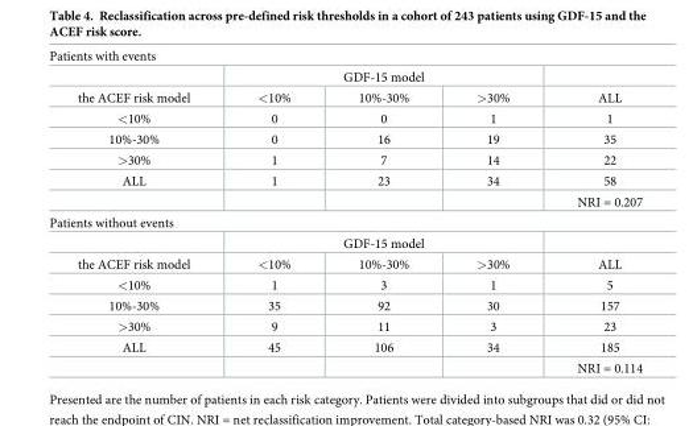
<table><tbody><tr><td colspan="5">Patients with events</td></tr><tr><td></td><td colspan="3">GDF-15 model</td><td></td></tr><tr><td>the ACEF risk model</td><td>&lt;10%</td><td>10%-30%</td><td>&gt;30%</td><td>ALL</td></tr><tr><td>&lt;10%</td><td>0</td><td>0</td><td>1</td><td>1</td></tr><tr><td>10%-30%</td><td>0</td><td>16</td><td>19</td><td>35</td></tr><tr><td>&gt;30%</td><td>1</td><td>7</td><td>14</td><td>22</td></tr><tr><td rowspan="2">ALL</td><td>1</td><td>23</td><td>34</td><td>58</td></tr><tr><td></td><td></td><td></td><td>NRI = 0.207</td></tr><tr><td colspan="5">Patients without events</td></tr><tr><td></td><td colspan="3">GDF-15 model</td><td></td></tr><tr><td>the ACEF risk model</td><td>&lt;10%</td><td>10%-30%</td><td>&gt;30%</td><td>ALL</td></tr><tr><td>&lt;10%</td><td>1</td><td>3</td><td>1</td><td>5</td></tr><tr><td>10%-30%</td><td>35</td><td>92</td><td>30</td><td>157</td></tr><tr><td>&gt;30%</td><td>9</td><td>11</td><td>3</td><td>23</td></tr><tr><td rowspan="2">ALL</td><td>45</td><td>106</td><td>34</td><td>185</td></tr><tr><td></td><td></td><td></td><td>NRI = 0.114</td></tr></tbody></table>